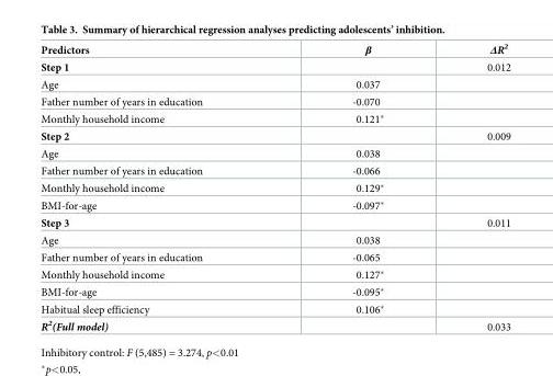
<table><thead><tr><td>Predictors</td><td>β</td><td>ΔR<sup>2</sup></td></tr></thead><tbody><tr><td>Step 1</td><td></td><td>0.012</td></tr><tr><td>Age</td><td>0.037</td><td></td></tr><tr><td>Father number of years in education</td><td>-0.070</td><td></td></tr><tr><td>Monthly household income</td><td>0.121*</td><td></td></tr><tr><td>Step 2</td><td></td><td>0.009</td></tr><tr><td>Age</td><td>0.038</td><td></td></tr><tr><td>Father number of years in education</td><td>-0.066</td><td></td></tr><tr><td>Monthly household income</td><td>0.129*</td><td></td></tr><tr><td>BMI-for-age</td><td>-0.097*</td><td></td></tr><tr><td>Step 3</td><td></td><td>0.011</td></tr><tr><td>Age</td><td>0.038</td><td></td></tr><tr><td>Father number of years in education</td><td>-0.065</td><td></td></tr><tr><td>Monthly household income</td><td>0.127*</td><td></td></tr><tr><td>BMI-for-age</td><td>-0.095*</td><td></td></tr><tr><td>Habitual sleep efficiency</td><td>0.106*</td><td></td></tr><tr><td>R<sup>2</sup>(Full model)</td><td></td><td>0.033</td></tr></tbody></table>